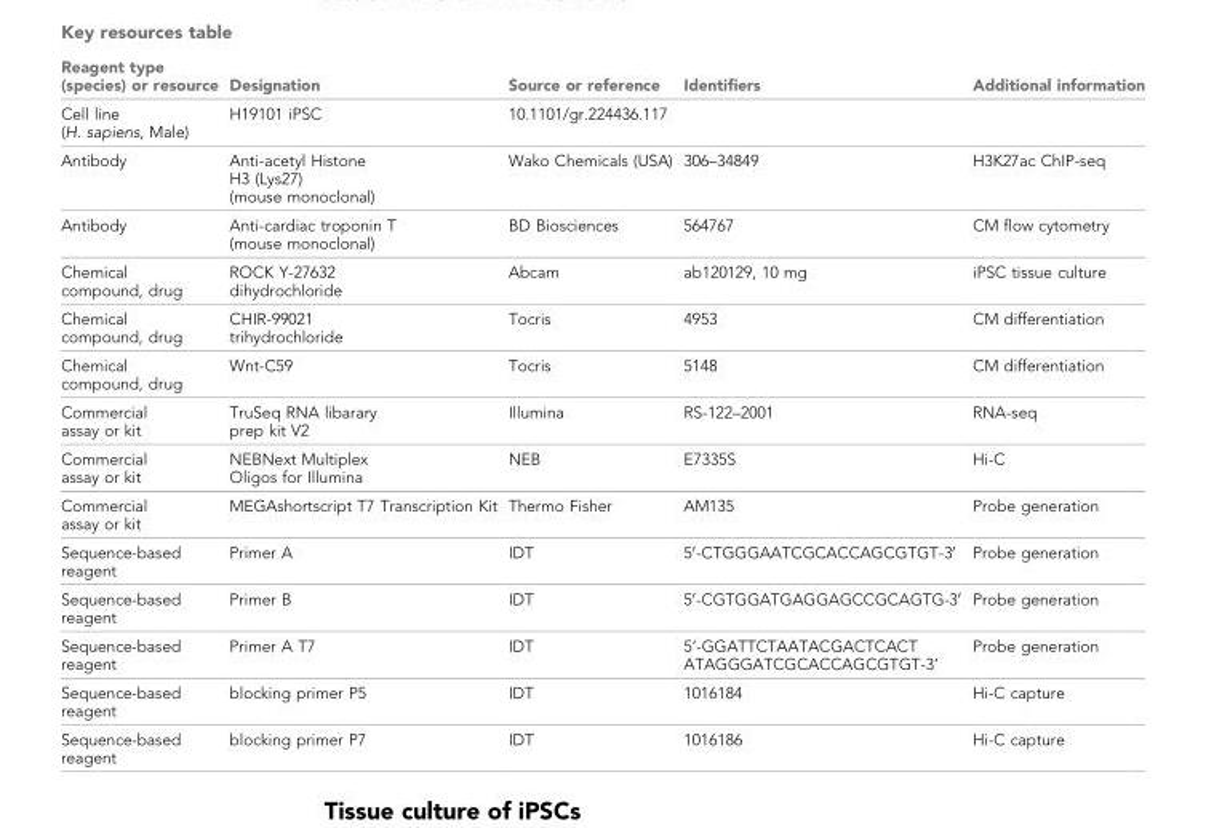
<table><thead><tr><td>Reagent type (species) or resource</td><td>Designation</td><td>Source or reference</td><td>Identifiers</td><td>Additional information</td></tr></thead><tbody><tr><td>Cell line (H. sapiens, Male)</td><td>H19101 iPSC</td><td>10.1101/gr.224436.117</td><td></td><td></td></tr><tr><td>Antibody</td><td>Anti-acetyl Histone H3 (Lys27) (mouse monoclonal)</td><td>Wako Chemicals (USA)</td><td>306–34849</td><td>H3K27ac ChIP-seq</td></tr><tr><td>Antibody</td><td>Anti-cardiac troponin T (mouse monoclonal)</td><td>BD Biosciences</td><td>564767</td><td>CM flow cytometry</td></tr><tr><td>Chemical compound, drug</td><td>ROCK Y-27632 dihydrochloride</td><td>Abcam</td><td>ab120129, 10 mg</td><td>iPSC tissue culture</td></tr><tr><td>Chemical compound, drug</td><td>CHIR-99021 trihydrochloride</td><td>Tocris</td><td>4953</td><td>CM differentiation</td></tr><tr><td>Chemical compound, drug</td><td>Wnt-C59</td><td>Tocris</td><td>5148</td><td>CM differentiation</td></tr><tr><td>Commercial assay or kit</td><td>TruSeq RNA libarary prep kit V2</td><td>Illumina</td><td>RS-122–2001</td><td>RNA-seq</td></tr><tr><td>Commercial assay or kit</td><td>NEBNext Multiplex Oligos for Illumina</td><td>NEB</td><td>E7335S</td><td>Hi-C</td></tr><tr><td>Commercial assay or kit</td><td>MEGAshortscript T7 Transcription Kit</td><td>Thermo Fisher</td><td>AM135</td><td>Probe generation</td></tr><tr><td>Sequence-based reagent</td><td>Primer A</td><td>IDT</td><td>5′-CTGGGAATCGCACCAGCGTGT-3′</td><td>Probe generation</td></tr><tr><td>Sequence-based reagent</td><td>Primer B</td><td>IDT</td><td>5′-CGTGGATGAGGAGCCGCAGTG-3′</td><td>Probe generation</td></tr><tr><td>Sequence-based reagent</td><td>Primer A T7</td><td>IDT</td><td>5’-GGATTCTAATACGACTCACT ATAGGGATCGCACCAGCGTGT-3’</td><td>Probe generation</td></tr><tr><td>Sequence-based reagent</td><td>blocking primer P5</td><td>IDT</td><td>1016184</td><td>Hi-C capture</td></tr><tr><td>Sequence-based reagent</td><td>blocking primer P7</td><td>IDT</td><td>1016186</td><td>Hi-C capture</td></tr></tbody></table>